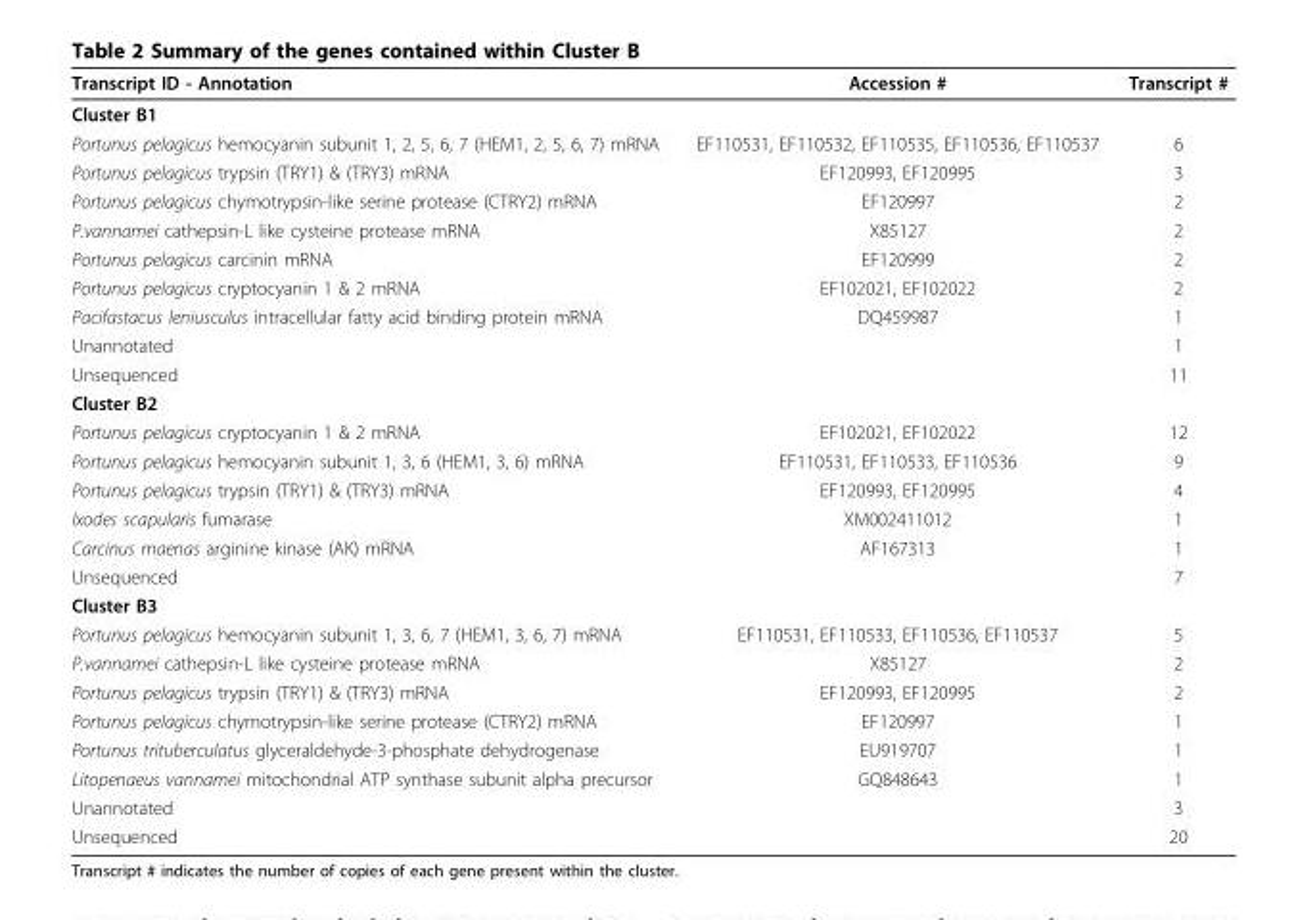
<table><thead><tr><td>Transcript ID - Annotation</td><td>Accession #</td><td>Transcript #</td></tr></thead><tbody><tr><td colspan="3">Cluster B1</td></tr><tr><td>Portunus pelagicus hemocyanin subunit 1, 2, 5, 6, 7 (HEM1, 2, 5, 6, 7) mRNA</td><td>EF110531, EF110532, EF110535, EF110536, EF110537</td><td>6</td></tr><tr><td>Portunus pelagicus trypsin (TRY1) &amp; (TRY3) mRNA</td><td>EF120993, EF120995</td><td>3</td></tr><tr><td>Portunus pelagicus chymotrypsin-like serine protease (CTRY2) mRNA</td><td>EF120997</td><td>2</td></tr><tr><td>P.vannamei cathepsin-L like cysteine protease mRNA</td><td>X85127</td><td>2</td></tr><tr><td>Portunus pelagicus carcinin mRNA</td><td>EF120999</td><td>2</td></tr><tr><td>Portunus pelagicus cryptocyanin 1 &amp; 2 mRNA</td><td>EF102021, EF102022</td><td>2</td></tr><tr><td>Pacifastacus leniusculus intracellular fatty acid binding protein mRNA</td><td>DQ459987</td><td>1</td></tr><tr><td>Unannotated</td><td></td><td>1</td></tr><tr><td>Unsequenced</td><td></td><td>11</td></tr><tr><td colspan="3">Cluster B2</td></tr><tr><td>Portunus pelagicus cryptocyanin 1 &amp; 2 mRNA</td><td>EF102021, EF102022</td><td>12</td></tr><tr><td>Portunus pelagicus hemocyanin subunit 1, 3, 6 (HEM1, 3, 6) mRNA</td><td>EF110531, EF110533, EF110536</td><td>9</td></tr><tr><td>Portunus pelagicus trypsin (TRY1) &amp; (TRY3) mRNA</td><td>EF120993, EF120995</td><td>4</td></tr><tr><td>Ixodes scapularis fumarase</td><td>XM002411012</td><td>1</td></tr><tr><td>Carcinus maenas arginine kinase (AK) mRNA</td><td>AF167313</td><td>1</td></tr><tr><td>Unsequenced</td><td></td><td>7</td></tr><tr><td colspan="3">Cluster B3</td></tr><tr><td>Portunus pelagicus hemocyanin subunit 1, 3, 6, 7 (HEM1, 3, 6, 7) mRNA</td><td>EF110531, EF110533, EF110536, EF110537</td><td>5</td></tr><tr><td>P.vannamei cathepsin-L like cysteine protease mRNA</td><td>X85127</td><td>2</td></tr><tr><td>Portunus pelagicus trypsin (TRY1) &amp; (TRY3) mRNA</td><td>EF120993, EF120995</td><td>2</td></tr><tr><td>Portunus pelagicus chymotrypsin-like serine protease (CTRY2) mRNA</td><td>EF120997</td><td>1</td></tr><tr><td>Portunus trituberculatus glyceraldehyde-3-phosphate dehydrogenase</td><td>EU919707</td><td>1</td></tr><tr><td>Litopenaeus vannamei mitochondrial ATP synthase subunit alpha precursor</td><td>GQ848643</td><td>1</td></tr><tr><td>Unannotated</td><td></td><td>3</td></tr><tr><td>Unsequenced</td><td></td><td>20</td></tr></tbody></table>